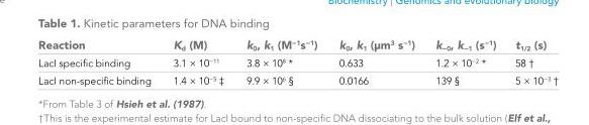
<table><thead><tr><td>Reaction</td><td>K<sub>d</sub> (M)</td><td>k<sub>0</sub>, k<sub>1</sub> (M<sup>−1</sup>s<sup>−1</sup>)</td><td>k<sub>0</sub>, k<sub>1</sub> (µm<sup>3</sup> s<sup>−1</sup>)</td><td>k<sub>−0</sub>, k<sub>−1</sub> (s<sup>−1</sup>)</td><td>t<sub>1/2</sub> (s)</td></tr></thead><tbody><tr><td>LacI specific binding</td><td>3.1 × 10<sup>−11</sup></td><td>3.8 × 10<sup>8</sup> *</td><td>0.633</td><td>1.2 × 10<sup>−2</sup> *</td><td>58 †</td></tr><tr><td>LacI non-specific binding</td><td>1.4 × 10<sup>−5</sup> ‡</td><td>9.9 × 10<sup>6</sup> §</td><td>0.0166</td><td>139 §</td><td>5 × 10−3</td></tr></tbody></table>